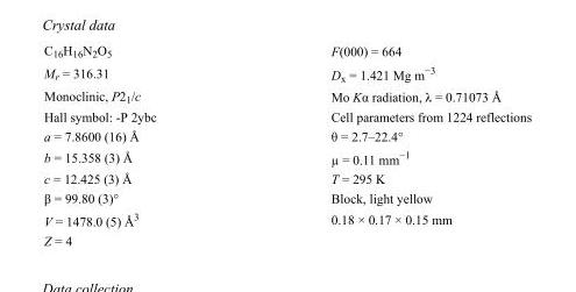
<table><tbody><tr><td>C<sub>16</sub>H<sub>16</sub>N<sub>2</sub>O<sub>5</sub></td><td>F(000) = 664</td></tr><tr><td>M<sub>r</sub> = 316.31</td><td>D<sub>x</sub> = 1.421 Mg m<sup>−3</sup></td></tr><tr><td>Monoclinic, P2<sub>1</sub>/c</td><td>Mo Kα radiation, λ = 0.71073 Å</td></tr><tr><td>Hall symbol: -P 2ybc</td><td>Cell parameters from 1224 reflections</td></tr><tr><td>a = 7.8600 (16) Å</td><td>θ = 2.7–22.4°</td></tr><tr><td>b = 15.358 (3) Å</td><td>µ = 0.11 mm<sup>−1</sup></td></tr><tr><td>c = 12.425 (3) Å</td><td>T = 295 K</td></tr><tr><td>β = 99.80 (3)°</td><td>Block, light yellow</td></tr><tr><td>V = 1478.0 (5) Å<sup>3</sup></td><td>0.18 × 0.17 × 0.15 mm</td></tr><tr><td>Z = 4</td><td></td></tr></tbody></table>